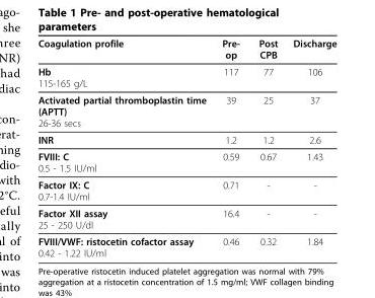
<table><thead><tr><td>Coagulation profile</td><td>Pre- op</td><td>Post CPB</td><td>Discharge</td></tr></thead><tbody><tr><td>Hb 115-165 g/L</td><td>117</td><td>77</td><td>106</td></tr><tr><td>Activated partial thromboplastin time (APTT) 26-36 secs</td><td>39</td><td>25</td><td>37</td></tr><tr><td>INR</td><td>1.2</td><td>1.2</td><td>2.6</td></tr><tr><td>FVIII: C 0.5 - 1.5 IU/ml</td><td>0.59</td><td>0.67</td><td>1.43</td></tr><tr><td>Factor IX: C 0.7-1.4 IU/ml</td><td>0.71</td><td>-</td><td>-</td></tr><tr><td>Factor XII assay 25 - 250 U/dl</td><td>16.4</td><td>-</td><td>-</td></tr><tr><td>FVIII/VWF: ristocetin cofactor assay 0.42 - 1.22 IU/ml</td><td>0.46</td><td>0.32</td><td>1.84</td></tr></tbody></table>